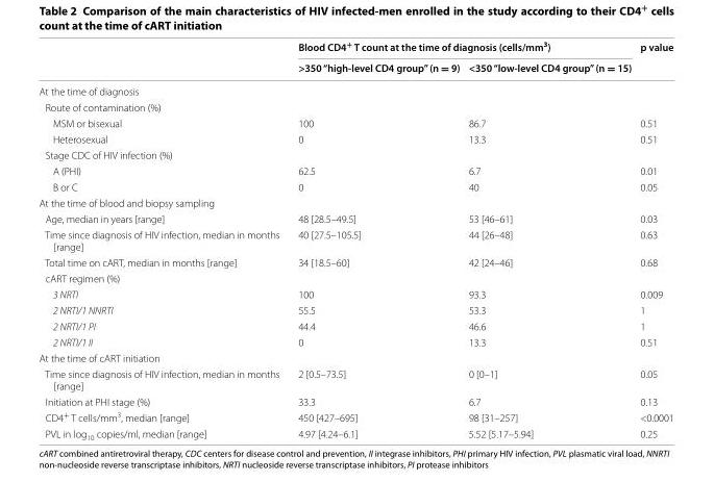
<table><thead><tr><td rowspan="2"></td><td colspan="2">Blood CD4<sup>+</sup> T count at the time of diagnosis (cells/mm<sup>3</sup>)</td><td rowspan="2">p value</td></tr><tr><td>&gt;350 “high-level CD4 group” (n = 9)</td><td>&lt;350 “low-level CD4 group” (n = 15)</td></tr></thead><tbody><tr><td colspan="4">At the time of diagnosis</td></tr><tr><td colspan="4">Route of contamination (%)</td></tr><tr><td>MSM or bisexual</td><td>100</td><td>86.7</td><td>0.51</td></tr><tr><td>Heterosexual</td><td>0</td><td>13.3</td><td>0.51</td></tr><tr><td colspan="4">Stage CDC of HIV infection (%)</td></tr><tr><td>A (PHI)</td><td>62.5</td><td>6.7</td><td>0.01</td></tr><tr><td>B or C</td><td>0</td><td>40</td><td>0.05</td></tr><tr><td colspan="4">At the time of blood and biopsy sampling</td></tr><tr><td>Age, median in years [range]</td><td>48 [28.5–49.5]</td><td>53 [46–61]</td><td>0.03</td></tr><tr><td>Time since diagnosis of HIV infection, median in months [range]</td><td>40 [27.5–105.5]</td><td>44 [26–48]</td><td>0.63</td></tr><tr><td>Total time on cART, median in months [range]</td><td>34 [18.5–60]</td><td>42 [24–46]</td><td>0.68</td></tr><tr><td colspan="4">cART regimen (%)</td></tr><tr><td>3 NRTI</td><td>100</td><td>93.3</td><td>0.009</td></tr><tr><td>2 NRTI/1 NNRTI</td><td>55.5</td><td>53.3</td><td>1</td></tr><tr><td>2 NRTI/1 PI</td><td>44.4</td><td>46.6</td><td>1</td></tr><tr><td>2 NRTI/1 II</td><td>0</td><td>13.3</td><td>0.51</td></tr><tr><td colspan="4">At the time of cART initiation</td></tr><tr><td>Time since diagnosis of HIV infection, median in months [range]</td><td>2 [0.5–73.5]</td><td>0 [0–1]</td><td>0.05</td></tr><tr><td>Initiation at PHI stage (%)</td><td>33.3</td><td>6.7</td><td>0.13</td></tr><tr><td>CD4<sup>+</sup> T cells/mm<sup>3</sup>, median [range]</td><td>450 [427–695]</td><td>98 [31–257]</td><td>&lt;0.0001</td></tr><tr><td>PVL in log<sub>10</sub> copies/ml, median [range]</td><td>4.97 [4.24–6.1]</td><td>5.52 [5.17–5.94]</td><td>0.25</td></tr></tbody></table>